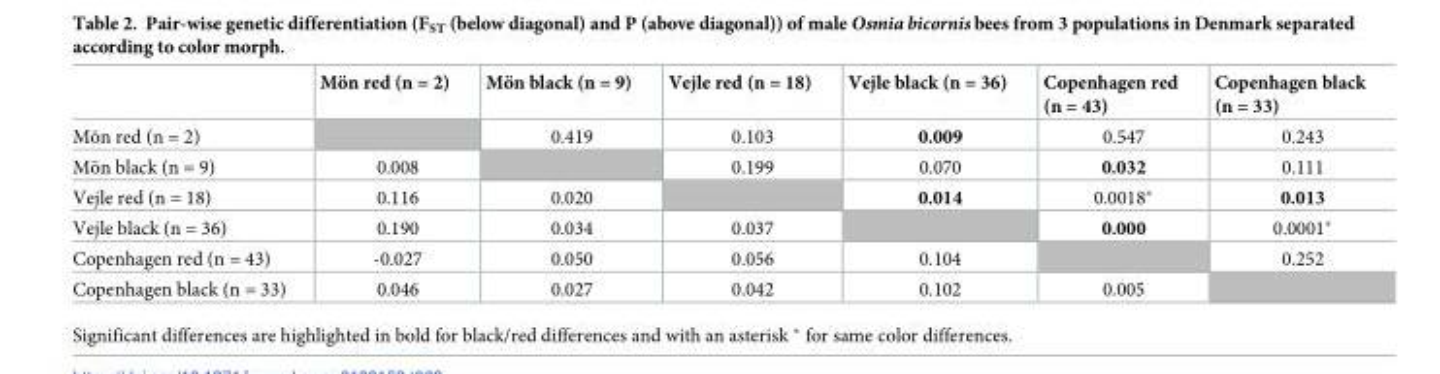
<table><thead><tr><td></td><td>Mo¨n red (n = 2)</td><td>Mo¨n black (n = 9)</td><td>Vejle red (n = 18)</td><td>Vejle black (n = 36)</td><td>Copenhagen red (n = 43)</td><td>Copenhagen black (n = 33)</td></tr></thead><tbody><tr><td>Mo¨n red (n = 2)</td><td></td><td>0.419</td><td>0.103</td><td>0.009</td><td>0.547</td><td>0.243</td></tr><tr><td>Mo¨n black (n = 9)</td><td>0.008</td><td></td><td>0.199</td><td>0.070</td><td>0.032</td><td>0.111</td></tr><tr><td>Vejle red (n = 18)</td><td>0.116</td><td>0.020</td><td></td><td>0.014</td><td>0.0018*</td><td>0.013</td></tr><tr><td>Vejle black (n = 36)</td><td>0.190</td><td>0.034</td><td>0.037</td><td></td><td>0.000</td><td>0.0001*</td></tr><tr><td>Copenhagen red (n = 43)</td><td>-0.027</td><td>0.050</td><td>0.056</td><td>0.104</td><td></td><td>0.252</td></tr><tr><td>Copenhagen black (n = 33)</td><td>0.046</td><td>0.027</td><td>0.042</td><td>0.102</td><td>0.005</td><td></td></tr></tbody></table>